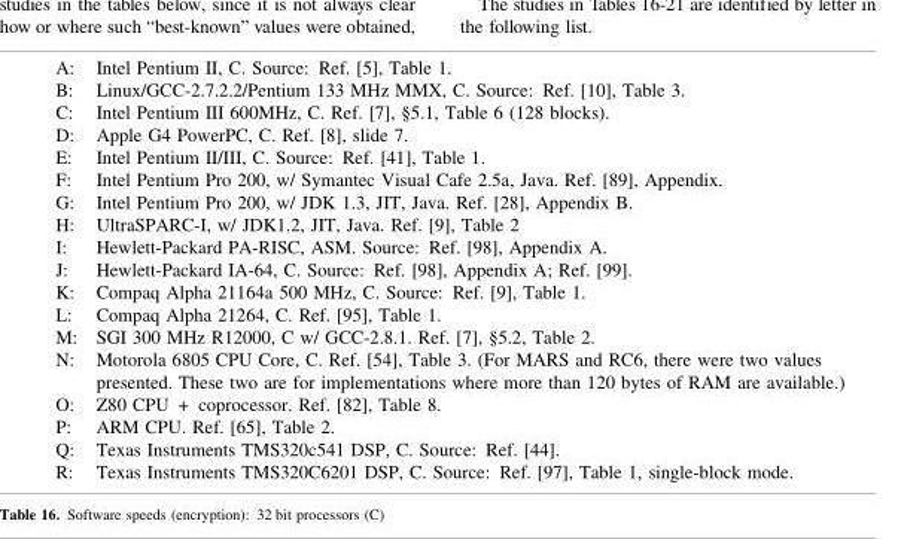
<table><tbody><tr><td>A:</td><td>Intel Pentium II, C. Source: Ref. [5], Table 1.</td></tr><tr><td>B:</td><td>Linux/GCC-2.7.2.2/Pentium 133 MHz MMX, C. Source: Ref. [10], Table 3.</td></tr><tr><td>C:</td><td>Intel Pentium III 600MHz, C. Ref. [7], §5.1, Table 6 (128 blocks).</td></tr><tr><td>D:</td><td>Apple G4 PowerPC, C. Ref. [8], slide 7.</td></tr><tr><td>E:</td><td>Intel Pentium II/III, C. Source: Ref. [41], Table 1.</td></tr><tr><td>F:</td><td>Intel Pentium Pro 200, w/ Symantec Visual Cafe 2.5a, Java. Ref. [89], Appendix.</td></tr><tr><td>G:</td><td>Intel Pentium Pro 200, w/ JDK 1.3, JIT, Java. Ref. [28], Appendix B.</td></tr><tr><td>H:</td><td>UltraSPARC-I, w/ JDK1.2, JIT, Java. Ref. [9], Table 2</td></tr><tr><td>I:</td><td>Hewlett-Packard PA-RISC, ASM. Source: Ref. [98], Appendix A.</td></tr><tr><td>J:</td><td>Hewlett-Packard IA-64, C. Source: Ref. [98], Appendix A; Ref. [99].</td></tr><tr><td>K:</td><td>Compaq Alpha 21164a 500 MHz, C. Source: Ref. [9], Table 1.</td></tr><tr><td>L:</td><td>Compaq Alpha 21264, C. Ref. [95], Table 1.</td></tr><tr><td>M:</td><td>SGI 300 MHz R12000, C w/ GCC-2.8.1. Ref. [7], §5.2, Table 2.</td></tr><tr><td>N:</td><td>Motorola 6805 CPU Core, C. Ref. [54], Table 3. (For MARS and RC6, there were two values presented. These two are for implementations where more than 120 bytes of RAM are available.)</td></tr><tr><td>O:</td><td>Z80 CPU + coprocessor. Ref. [82], Table 8.</td></tr><tr><td>P:</td><td>ARM CPU. Ref. [65], Table 2.</td></tr><tr><td>Q:</td><td>Texas Instruments TMS320c541 DSP, C. Source: Ref. [44].</td></tr><tr><td>R:</td><td>Texas Instruments TMS320C6201 DSP, C. Source: Ref. [97], Table 1, single-block mode.</td></tr></tbody></table>